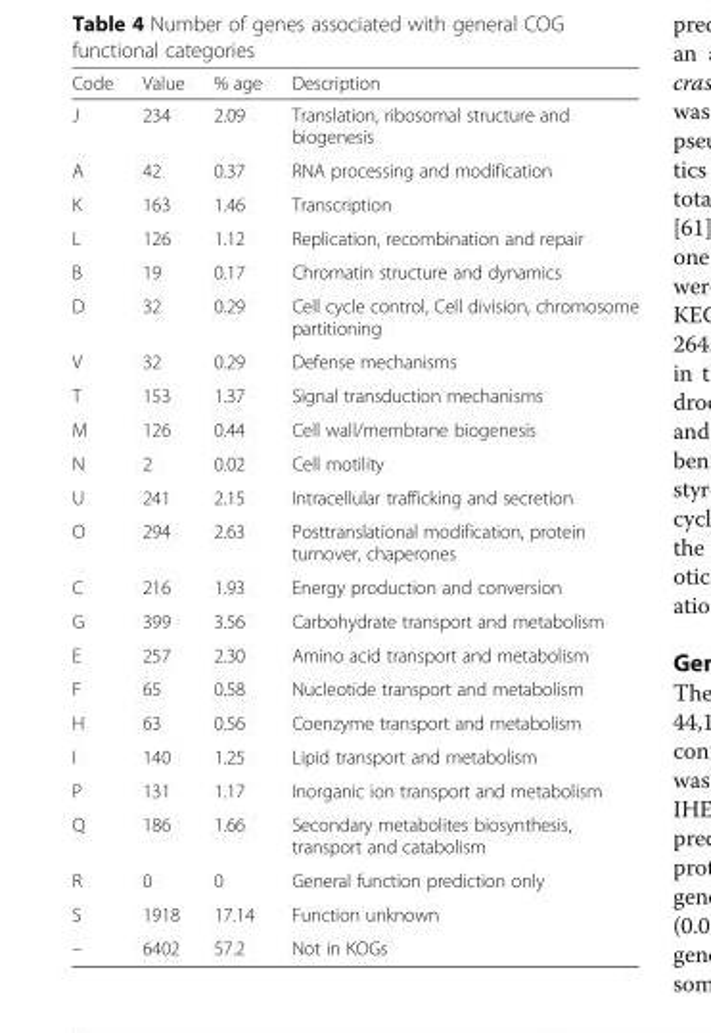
<table><thead><tr><td>Code</td><td>Value</td><td>% age</td><td>Description</td></tr></thead><tbody><tr><td>J</td><td>234</td><td>2.09</td><td>Translation, ribosomal structure and biogenesis</td></tr><tr><td>A</td><td>42</td><td>0.37</td><td>RNA processing and modification</td></tr><tr><td>K</td><td>163</td><td>1.46</td><td>Transcription</td></tr><tr><td>L</td><td>126</td><td>1.12</td><td>Replication, recombination and repair</td></tr><tr><td>B</td><td>19</td><td>0.17</td><td>Chromatin structure and dynamics</td></tr><tr><td>D</td><td>32</td><td>0.29</td><td>Cell cycle control, Cell division, chromosome partitioning</td></tr><tr><td>V</td><td>32</td><td>0.29</td><td>Defense mechanisms</td></tr><tr><td>T</td><td>153</td><td>1.37</td><td>Signal transduction mechanisms</td></tr><tr><td>M</td><td>126</td><td>0.44</td><td>Cell wall/membrane biogenesis</td></tr><tr><td>N</td><td>2</td><td>0.02</td><td>Cell motility</td></tr><tr><td>U</td><td>241</td><td>2.15</td><td>Intracellular trafficking and secretion</td></tr><tr><td>O</td><td>294</td><td>2.63</td><td>Posttranslational modification, protein turnover, chaperones</td></tr><tr><td>C</td><td>216</td><td>1.93</td><td>Energy production and conversion</td></tr><tr><td>G</td><td>399</td><td>3.56</td><td>Carbohydrate transport and metabolism</td></tr><tr><td>E</td><td>257</td><td>2.30</td><td>Amino acid transport and metabolism</td></tr><tr><td>F</td><td>65</td><td>0.58</td><td>Nucleotide transport and metabolism</td></tr><tr><td>H</td><td>63</td><td>0.56</td><td>Coenzyme transport and metabolism</td></tr><tr><td>I</td><td>140</td><td>1.25</td><td>Lipid transport and metabolism</td></tr><tr><td>P</td><td>131</td><td>1.17</td><td>Inorganic ion transport and metabolism</td></tr><tr><td>Q</td><td>186</td><td>1.66</td><td>Secondary metabolites biosynthesis, transport and catabolism</td></tr><tr><td>R</td><td>0</td><td>0</td><td>General function prediction only</td></tr><tr><td>S</td><td>1918</td><td>17.14</td><td>Function unknown</td></tr><tr><td>–</td><td>6402</td><td>57.2</td><td>Not in KOGs</td></tr></tbody></table>